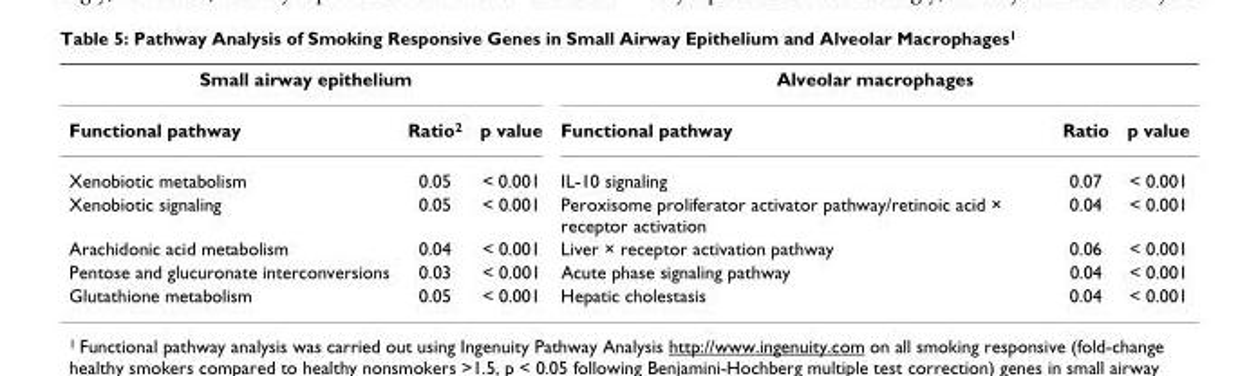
<table><tbody><tr><td colspan="3">Small airway epithelium</td><td colspan="3">Alveolar macrophages</td></tr><tr><td>Functional pathway</td><td>Ratio<sup>2</sup></td><td>p value</td><td>Functional pathway</td><td>Ratio</td><td>p value</td></tr><tr><td>Xenobiotic metabolism</td><td>0.05</td><td>&lt; 0.001</td><td>IL-10 signaling</td><td>0.07</td><td>&lt; 0.001</td></tr><tr><td>Xenobiotic signaling</td><td>0.05</td><td>&lt; 0.001</td><td>Peroxisome proliferator activator pathway/retinoic acid × receptor activation</td><td>0.04</td><td>&lt; 0.001</td></tr><tr><td>Arachidonic acid metabolism</td><td>0.04</td><td>&lt; 0.001</td><td>Liver × receptor activation pathway</td><td>0.06</td><td>&lt; 0.001</td></tr><tr><td>Pentose and glucuronate interconversions</td><td>0.03</td><td>&lt; 0.001</td><td>Acute phase signaling pathway</td><td>0.04</td><td>&lt; 0.001</td></tr><tr><td>Glutathione metabolism</td><td>0.05</td><td>&lt; 0.001</td><td>Hepatic cholestasis</td><td>0.04</td><td>&lt; 0.001</td></tr></tbody></table>